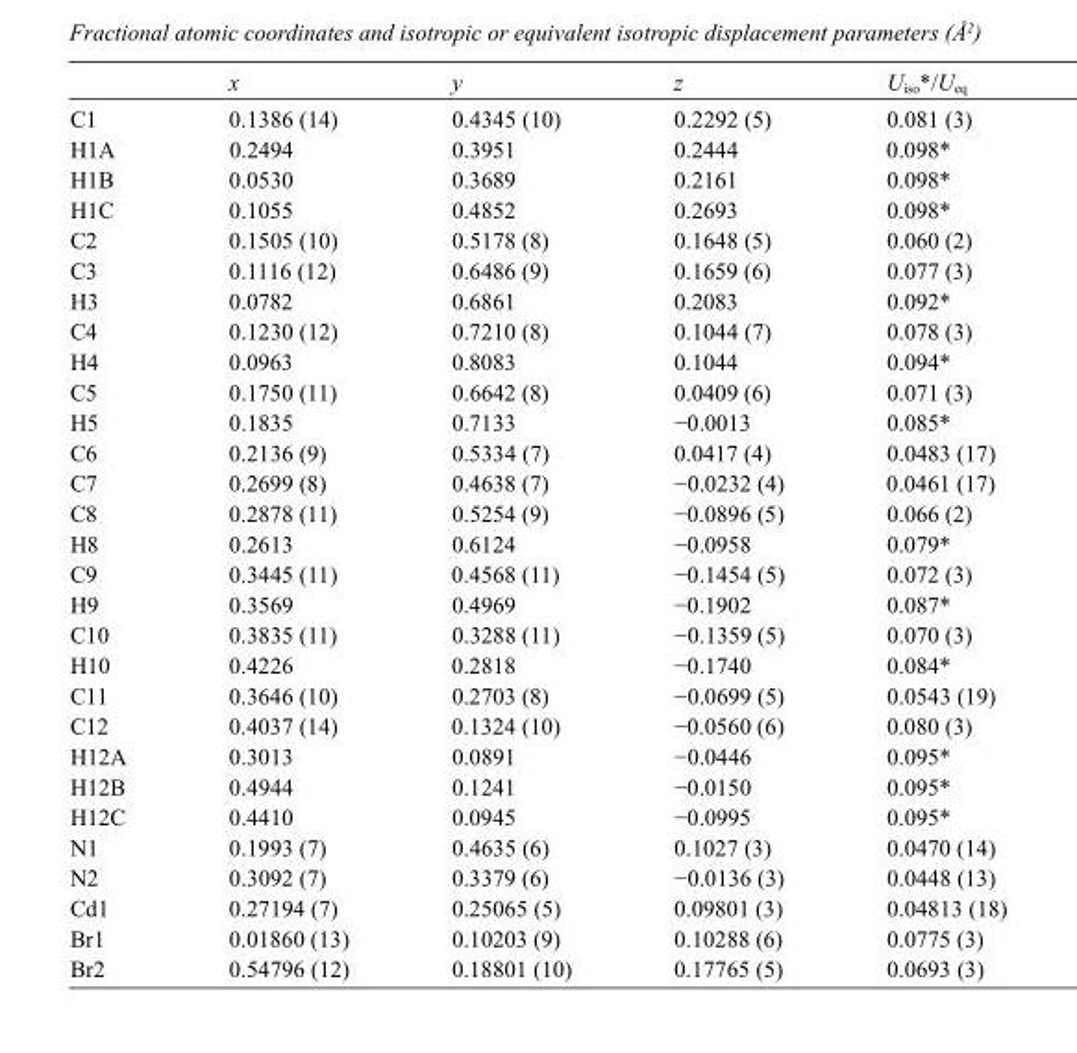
<table><thead><tr><td></td><td>x</td><td>y</td><td>z</td><td>U<sub>iso</sub>*/U<sub>eq</sub></td></tr></thead><tbody><tr><td>C1</td><td>0.1386 (14)</td><td>0.4345 (10)</td><td>0.2292 (5)</td><td>0.081 (3)</td></tr><tr><td>H1A</td><td>0.2494</td><td>0.3951</td><td>0.2444</td><td>0.098*</td></tr><tr><td>H1B</td><td>0.0530</td><td>0.3689</td><td>0.2161</td><td>0.098*</td></tr><tr><td>H1C</td><td>0.1055</td><td>0.4852</td><td>0.2693</td><td>0.098*</td></tr><tr><td>C2</td><td>0.1505 (10)</td><td>0.5178 (8)</td><td>0.1648 (5)</td><td>0.060 (2)</td></tr><tr><td>C3</td><td>0.1116 (12)</td><td>0.6486 (9)</td><td>0.1659 (6)</td><td>0.077 (3)</td></tr><tr><td>H3</td><td>0.0782</td><td>0.6861</td><td>0.2083</td><td>0.092*</td></tr><tr><td>C4</td><td>0.1230 (12)</td><td>0.7210 (8)</td><td>0.1044 (7)</td><td>0.078 (3)</td></tr><tr><td>H4</td><td>0.0963</td><td>0.8083</td><td>0.1044</td><td>0.094*</td></tr><tr><td>C5</td><td>0.1750 (11)</td><td>0.6642 (8)</td><td>0.0409 (6)</td><td>0.071 (3)</td></tr><tr><td>H5</td><td>0.1835</td><td>0.7133</td><td>−0.0013</td><td>0.085*</td></tr><tr><td>C6</td><td>0.2136 (9)</td><td>0.5334 (7)</td><td>0.0417 (4)</td><td>0.0483 (17)</td></tr><tr><td>C7</td><td>0.2699 (8)</td><td>0.4638 (7)</td><td>−0.0232 (4)</td><td>0.0461 (17)</td></tr><tr><td>C8</td><td>0.2878 (11)</td><td>0.5254 (9)</td><td>−0.0896 (5)</td><td>0.066 (2)</td></tr><tr><td>H8</td><td>0.2613</td><td>0.6124</td><td>−0.0958</td><td>0.079*</td></tr><tr><td>C9</td><td>0.3445 (11)</td><td>0.4568 (11)</td><td>−0.1454 (5)</td><td>0.072 (3)</td></tr><tr><td>H9</td><td>0.3569</td><td>0.4969</td><td>−0.1902</td><td>0.087*</td></tr><tr><td>C10</td><td>0.3835 (11)</td><td>0.3288 (11)</td><td>−0.1359 (5)</td><td>0.070 (3)</td></tr><tr><td>H10</td><td>0.4226</td><td>0.2818</td><td>−0.1740</td><td>0.084*</td></tr><tr><td>C11</td><td>0.3646 (10)</td><td>0.2703 (8)</td><td>−0.0699 (5)</td><td>0.0543 (19)</td></tr><tr><td>C12</td><td>0.4037 (14)</td><td>0.1324 (10)</td><td>−0.0560 (6)</td><td>0.080 (3)</td></tr><tr><td>H12A</td><td>0.3013</td><td>0.0891</td><td>−0.0446</td><td>0.095*</td></tr><tr><td>H12B</td><td>0.4944</td><td>0.1241</td><td>−0.0150</td><td>0.095*</td></tr><tr><td>H12C</td><td>0.4410</td><td>0.0945</td><td>−0.0995</td><td>0.095*</td></tr><tr><td>N1</td><td>0.1993 (7)</td><td>0.4635 (6)</td><td>0.1027 (3)</td><td>0.0470 (14)</td></tr><tr><td>N2</td><td>0.3092 (7)</td><td>0.3379 (6)</td><td>−0.0136 (3)</td><td>0.0448 (13)</td></tr><tr><td>Cd1</td><td>0.27194 (7)</td><td>0.25065 (5)</td><td>0.09801 (3)</td><td>0.04813 (18)</td></tr><tr><td>Br1</td><td>0.01860 (13)</td><td>0.10203 (9)</td><td>0.10288 (6)</td><td>0.0775 (3)</td></tr><tr><td>Br2</td><td>0.54796 (12)</td><td>0.18801 (10)</td><td>0.17765 (5)</td><td>0.0693 (3)</td></tr></tbody></table>